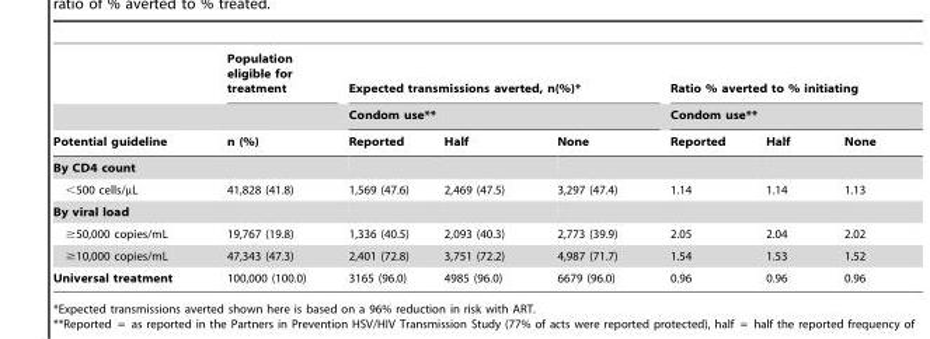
<table><thead><tr><td rowspan="3">Potential guideline</td><td rowspan="3">Population eligible for treatment n (%)</td><td rowspan="2" colspan="3">Expected transmissions averted, n(%)* Condom use**</td><td rowspan="2" colspan="3">Ratio % averted to % initiating Condom use**</td></tr><tr></tr><tr><td>Reported</td><td>Half</td><td>None</td><td>Reported</td><td>Half</td><td>None</td></tr></thead><tbody><tr><td colspan="8">By CD4 count</td></tr><tr><td>&lt;500 cells/µL</td><td>41,828 (41.8)</td><td>1,569 (47.6)</td><td>2,469 (47.5)</td><td>3,297 (47.4)</td><td>1.14</td><td>1.14</td><td>1.13</td></tr><tr><td colspan="8">By viral load</td></tr><tr><td>≥50,000 copies/mL</td><td>19,767 (19.8)</td><td>1,336 (40.5)</td><td>2,093 (40.3)</td><td>2,773 (39.9)</td><td>2.05</td><td>2.04</td><td>2.02</td></tr><tr><td>≥10,000 copies/mL</td><td>47,343 (47.3)</td><td>2,401 (72.8)</td><td>3,751 (72.2)</td><td>4,987 (71.7)</td><td>1.54</td><td>1.53</td><td>1.52</td></tr><tr><td>Universal treatment</td><td>100,000 (100.0)</td><td>3165 (96.0)</td><td>4985 (96.0)</td><td>6679 (96.0)</td><td>0.96</td><td>0.96</td><td>0.96</td></tr></tbody></table>